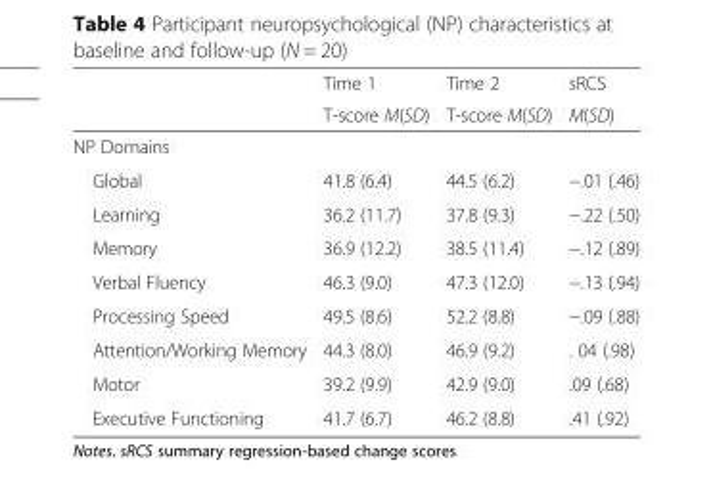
<table><thead><tr><td rowspan="2"></td><td rowspan="2">Time 1 T-score M(SD)</td><td rowspan="2">Time 2 T-score M(SD)</td><td rowspan="2">sRCS M(SD)</td></tr><tr></tr></thead><tbody><tr><td colspan="4">NP Domains</td></tr><tr><td>Global</td><td>41.8 (6.4)</td><td>44.5 (6.2)</td><td>−.01 (.46)</td></tr><tr><td>Learning</td><td>36.2 (11.7)</td><td>37.8 (9.3)</td><td>−.22 (.50)</td></tr><tr><td>Memory</td><td>36.9 (12.2)</td><td>38.5 (11.4)</td><td>−.12 (.89)</td></tr><tr><td>Verbal Fluency</td><td>46.3 (9.0)</td><td>47.3 (12.0)</td><td>−.13 (.94)</td></tr><tr><td>Processing Speed</td><td>49.5 (8.6)</td><td>52.2 (8.8)</td><td>−.09 (.88)</td></tr><tr><td>Attention/Working Memory</td><td>44.3 (8.0)</td><td>46.9 (9.2)</td><td>. 04 (.98)</td></tr><tr><td>Motor</td><td>39.2 (9.9)</td><td>42.9 (9.0)</td><td>.09 (.68)</td></tr><tr><td>Executive Functioning</td><td>41.7 (6.7)</td><td>46.2 (8.8)</td><td>.41 (.92)</td></tr></tbody></table>